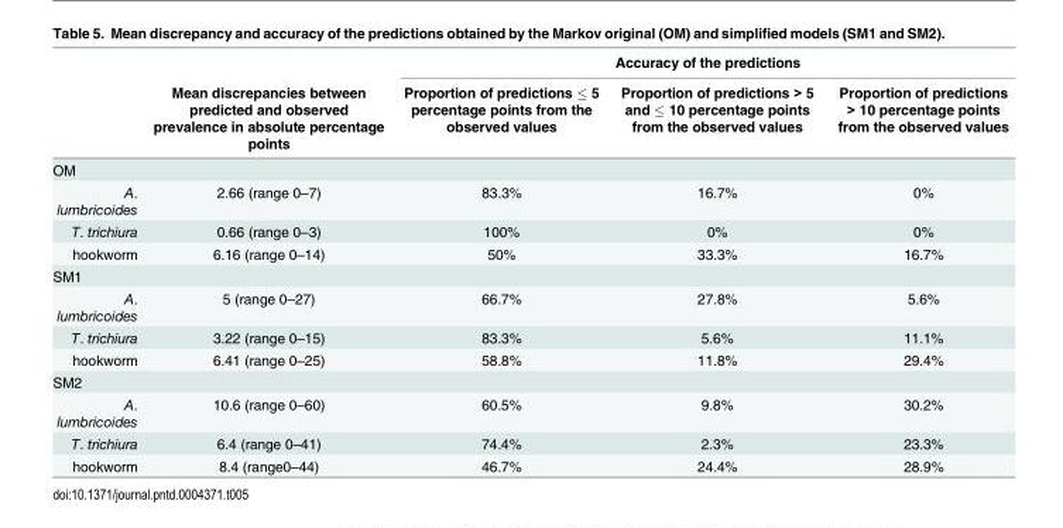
<table><thead><tr><td rowspan="2"></td><td rowspan="2">Mean discrepancies between predicted and observed prevalence in absolute percentage points</td><td colspan="3">Accuracy of the predictions</td></tr><tr><td>Proportion of predictions ≤ 5 percentage points from the observed values</td><td>Proportion of predictions &gt; 5 and ≤ 10 percentage points from the observed values</td><td>Proportion of predictions &gt; 10 percentage points from the observed values</td></tr></thead><tbody><tr><td colspan="5">OM</td></tr><tr><td>A. lumbricoides</td><td>2.66 (range 0–7)</td><td>83.3%</td><td>16.7%</td><td>0%</td></tr><tr><td>T. trichiura</td><td>0.66 (range 0–3)</td><td>100%</td><td>0%</td><td>0%</td></tr><tr><td>hookworm</td><td>6.16 (range 0–14)</td><td>50%</td><td>33.3%</td><td>16.7%</td></tr><tr><td colspan="5">SM1</td></tr><tr><td>A. lumbricoides</td><td>5 (range 0–27)</td><td>66.7%</td><td>27.8%</td><td>5.6%</td></tr><tr><td>T. trichiura</td><td>3.22 (range 0–15)</td><td>83.3%</td><td>5.6%</td><td>11.1%</td></tr><tr><td>hookworm</td><td>6.41 (range 0–25)</td><td>58.8%</td><td>11.8%</td><td>29.4%</td></tr><tr><td colspan="5">SM2</td></tr><tr><td>A. lumbricoides</td><td>10.6 (range 0–60)</td><td>60.5%</td><td>9.8%</td><td>30.2%</td></tr><tr><td>T. trichiura</td><td>6.4 (range 0–41)</td><td>74.4%</td><td>2.3%</td><td>23.3%</td></tr><tr><td>hookworm</td><td>8.4 (range0–44)</td><td>46.7%</td><td>24.4%</td><td>28.9%</td></tr></tbody></table>